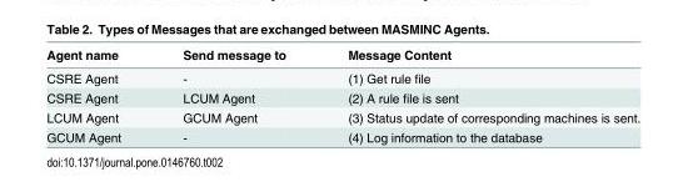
<table><thead><tr><td>Agent name</td><td>Send message to</td><td>Message Content</td></tr></thead><tbody><tr><td>CSRE Agent</td><td>-</td><td>(1) Get rule file</td></tr><tr><td>CSRE Agent</td><td>LCUM Agent</td><td>(2) A rule file is sent</td></tr><tr><td>LCUM Agent</td><td>GCUM Agent</td><td>(3) Status update of corresponding machines is sent.</td></tr><tr><td>GCUM Agent</td><td>-</td><td>(4) Log information to the database</td></tr></tbody></table>